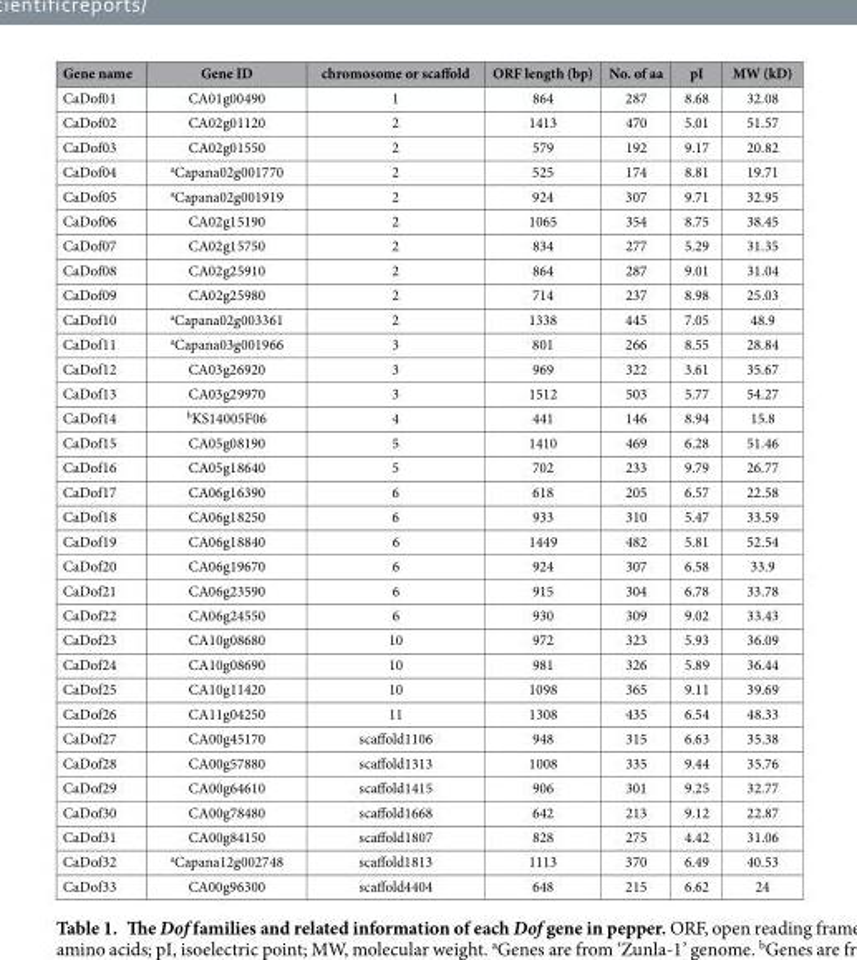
<table><thead><tr><td>Gene name</td><td>Gene ID</td><td>chromosome or scaffold</td><td>ORF length (bp)</td><td>No. of aa</td><td>pI</td><td>MW (kD)</td></tr></thead><tbody><tr><td>CaDof01</td><td>CA01g00490</td><td>1</td><td>864</td><td>287</td><td>8.68</td><td>32.08</td></tr><tr><td>CaDof02</td><td>CA02g01120</td><td>2</td><td>1413</td><td>470</td><td>5.01</td><td>51.57</td></tr><tr><td>CaDof03</td><td>CA02g01550</td><td>2</td><td>579</td><td>192</td><td>9.17</td><td>20.82</td></tr><tr><td>CaDof04</td><td>aCapana02g001770</td><td>2</td><td>525</td><td>174</td><td>8.81</td><td>19.71</td></tr><tr><td>CaDof05</td><td>aCapana02g001919</td><td>2</td><td>924</td><td>307</td><td>9.71</td><td>32.95</td></tr><tr><td>CaDof06</td><td>CA02g15190</td><td>2</td><td>1065</td><td>354</td><td>8.75</td><td>38.45</td></tr><tr><td>CaDof07</td><td>CA02g15750</td><td>2</td><td>834</td><td>277</td><td>5.29</td><td>31.35</td></tr><tr><td>CaDof08</td><td>CA02g25910</td><td>2</td><td>864</td><td>287</td><td>9.01</td><td>31.04</td></tr><tr><td>CaDof09</td><td>CA02g25980</td><td>2</td><td>714</td><td>237</td><td>8.98</td><td>25.03</td></tr><tr><td>CaDof10</td><td>aCapana02g003361</td><td>2</td><td>1338</td><td>445</td><td>7.05</td><td>48.9</td></tr><tr><td>CaDof11</td><td>aCapana03g001966</td><td>3</td><td>801</td><td>266</td><td>8.55</td><td>28.84</td></tr><tr><td>CaDof12</td><td>CA03g26920</td><td>3</td><td>969</td><td>322</td><td>3.61</td><td>35.67</td></tr><tr><td>CaDof13</td><td>CA03g29970</td><td>3</td><td>1512</td><td>503</td><td>5.77</td><td>54.27</td></tr><tr><td>CaDof14</td><td>bKS14005F06</td><td>4</td><td>441</td><td>146</td><td>8.94</td><td>15.8</td></tr><tr><td>CaDof15</td><td>CA05g08190</td><td>5</td><td>1410</td><td>469</td><td>6.28</td><td>51.46</td></tr><tr><td>CaDof16</td><td>CA05g18640</td><td>5</td><td>702</td><td>233</td><td>9.79</td><td>26.77</td></tr><tr><td>CaDof17</td><td>CA06g16390</td><td>6</td><td>618</td><td>205</td><td>6.57</td><td>22.58</td></tr><tr><td>CaDof18</td><td>CA06g18250</td><td>6</td><td>933</td><td>310</td><td>5.47</td><td>33.59</td></tr><tr><td>CaDof19</td><td>CA06g18840</td><td>6</td><td>1449</td><td>482</td><td>5.81</td><td>52.54</td></tr><tr><td>CaDof20</td><td>CA06g19670</td><td>6</td><td>924</td><td>307</td><td>6.58</td><td>33.9</td></tr><tr><td>CaDof21</td><td>CA06g23590</td><td>6</td><td>915</td><td>304</td><td>6.78</td><td>33.78</td></tr><tr><td>CaDof22</td><td>CA06g24550</td><td>6</td><td>930</td><td>309</td><td>9.02</td><td>33.43</td></tr><tr><td>CaDof23</td><td>CA10g08680</td><td>10</td><td>972</td><td>323</td><td>5.93</td><td>36.09</td></tr><tr><td>CaDof24</td><td>CA10g08690</td><td>10</td><td>981</td><td>326</td><td>5.89</td><td>36.44</td></tr><tr><td>CaDof25</td><td>CA10g11420</td><td>10</td><td>1098</td><td>365</td><td>9.11</td><td>39.69</td></tr><tr><td>CaDof26</td><td>CA11g04250</td><td>11</td><td>1308</td><td>435</td><td>6.54</td><td>48.33</td></tr><tr><td>CaDof27</td><td>CA00g45170</td><td>scaffold1106</td><td>948</td><td>315</td><td>6.63</td><td>35.38</td></tr><tr><td>CaDof28</td><td>CA00g57880</td><td>scaffold1313</td><td>1008</td><td>335</td><td>9.44</td><td>35.76</td></tr><tr><td>CaDof29</td><td>CA00g64610</td><td>scaffold1415</td><td>906</td><td>301</td><td>9.25</td><td>32.77</td></tr><tr><td>CaDof30</td><td>CA00g78480</td><td>scaffold1668</td><td>642</td><td>213</td><td>9.12</td><td>22.87</td></tr><tr><td>CaDof31</td><td>CA00g84150</td><td>scaffold1807</td><td>828</td><td>275</td><td>4.42</td><td>31.06</td></tr><tr><td>CaDof32</td><td>aCapana12g002748</td><td>scaffold1813</td><td>1113</td><td>370</td><td>6.49</td><td>40.53</td></tr><tr><td>CaDof33</td><td>CA00g96300</td><td>scaffold4404</td><td>648</td><td>215</td><td>6.62</td><td>24</td></tr></tbody></table>